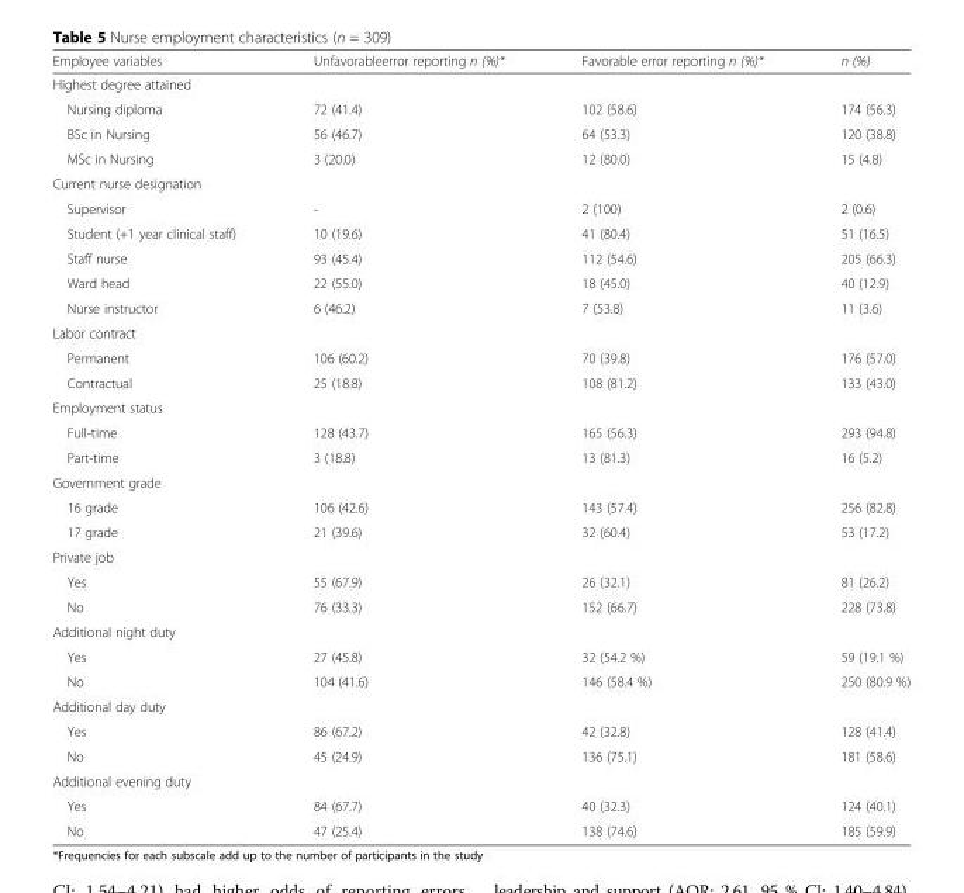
<table><thead><tr><td>Employee variables</td><td>Unfavorableerror reporting n (%)*</td><td>Favorable error reporting n (%)*</td><td>n (%)</td></tr></thead><tbody><tr><td colspan="4">Highest degree attained</td></tr><tr><td>Nursing diploma</td><td>72 (41.4)</td><td>102 (58.6)</td><td>174 (56.3)</td></tr><tr><td>BSc in Nursing</td><td>56 (46.7)</td><td>64 (53.3)</td><td>120 (38.8)</td></tr><tr><td>MSc in Nursing</td><td>3 (20.0)</td><td>12 (80.0)</td><td>15 (4.8)</td></tr><tr><td colspan="4">Current nurse designation</td></tr><tr><td>Supervisor</td><td>-</td><td>2 (100)</td><td>2 (0.6)</td></tr><tr><td>Student (+1 year clinical staff)</td><td>10 (19.6)</td><td>41 (80.4)</td><td>51 (16.5)</td></tr><tr><td>Staff nurse</td><td>93 (45.4)</td><td>112 (54.6)</td><td>205 (66.3)</td></tr><tr><td>Ward head</td><td>22 (55.0)</td><td>18 (45.0)</td><td>40 (12.9)</td></tr><tr><td>Nurse instructor</td><td>6 (46.2)</td><td>7 (53.8)</td><td>11 (3.6)</td></tr><tr><td colspan="4">Labor contract</td></tr><tr><td>Permanent</td><td>106 (60.2)</td><td>70 (39.8)</td><td>176 (57.0)</td></tr><tr><td>Contractual</td><td>25 (18.8)</td><td>108 (81.2)</td><td>133 (43.0)</td></tr><tr><td colspan="4">Employment status</td></tr><tr><td>Full-time</td><td>128 (43.7)</td><td>165 (56.3)</td><td>293 (94.8)</td></tr><tr><td>Part-time</td><td>3 (18.8)</td><td>13 (81.3)</td><td>16 (5.2)</td></tr><tr><td colspan="4">Government grade</td></tr><tr><td>16 grade</td><td>106 (42.6)</td><td>143 (57.4)</td><td>256 (82.8)</td></tr><tr><td>17 grade</td><td>21 (39.6)</td><td>32 (60.4)</td><td>53 (17.2)</td></tr><tr><td colspan="4">Private job</td></tr><tr><td>Yes</td><td>55 (67.9)</td><td>26 (32.1)</td><td>81 (26.2)</td></tr><tr><td>No</td><td>76 (33.3)</td><td>152 (66.7)</td><td>228 (73.8)</td></tr><tr><td colspan="4">Additional night duty</td></tr><tr><td>Yes</td><td>27 (45.8)</td><td>32 (54.2 %)</td><td>59 (19.1 %)</td></tr><tr><td>No</td><td>104 (41.6)</td><td>146 (58.4 %)</td><td>250 (80.9 %)</td></tr><tr><td colspan="4">Additional day duty</td></tr><tr><td>Yes</td><td>86 (67.2)</td><td>42 (32.8)</td><td>128 (41.4)</td></tr><tr><td>No</td><td>45 (24.9)</td><td>136 (75.1)</td><td>181 (58.6)</td></tr><tr><td colspan="4">Additional evening duty</td></tr><tr><td>Yes</td><td>84 (67.7)</td><td>40 (32.3)</td><td>124 (40.1)</td></tr><tr><td>No</td><td>47 (25.4)</td><td>138 (74.6)</td><td>185 (59.9)</td></tr></tbody></table>